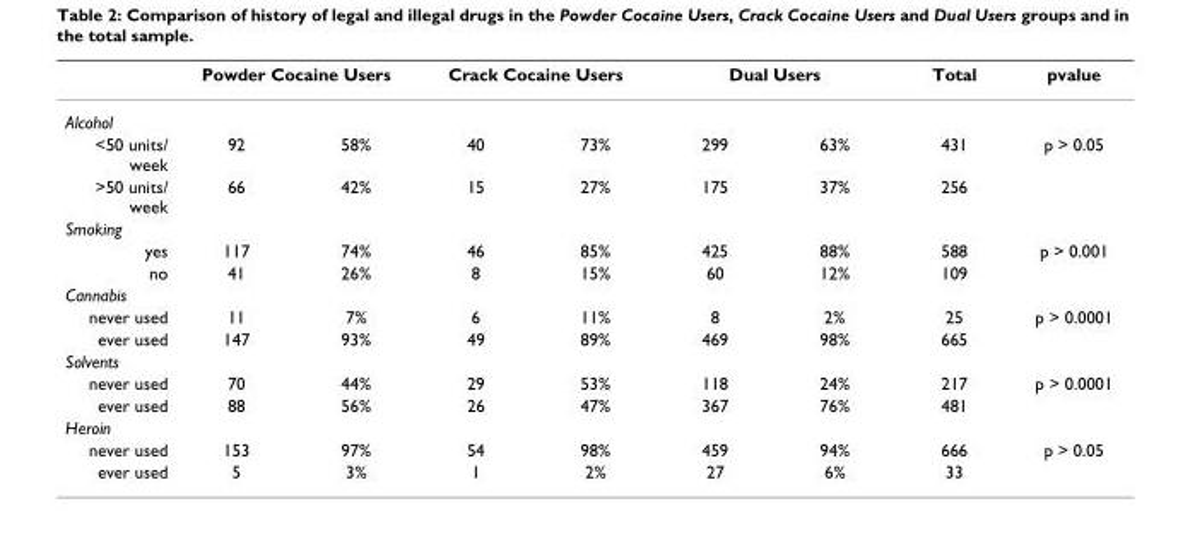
<table><thead><tr><td rowspan="2">Alcohol</td><td colspan="2">Powder Cocaine Users</td><td colspan="2">Crack Cocaine Users</td><td colspan="2">Dual Users</td><td rowspan="2">Total</td><td rowspan="2">pvalue</td></tr><tr><td></td><td></td><td></td><td></td><td></td><td></td></tr></thead><tbody><tr><td>&lt;50 units/ week</td><td>92</td><td>58%</td><td>40</td><td>73%</td><td>299</td><td>63%</td><td>431</td><td>p &gt; 0.05</td></tr><tr><td>&gt;50 units/ week</td><td>66</td><td>42%</td><td>15</td><td>27%</td><td>175</td><td>37%</td><td>256</td><td></td></tr><tr><td colspan="9">Smoking</td></tr><tr><td>yes</td><td>117</td><td>74%</td><td>46</td><td>85%</td><td>425</td><td>88%</td><td>588</td><td>p &gt; 0.001</td></tr><tr><td>no</td><td>41</td><td>26%</td><td>8</td><td>15%</td><td>60</td><td>12%</td><td>109</td><td></td></tr><tr><td colspan="9">Cannabis</td></tr><tr><td>never used</td><td>11</td><td>7%</td><td>6</td><td>11%</td><td>8</td><td>2%</td><td>25</td><td>p &gt; 0.0001</td></tr><tr><td>ever used</td><td>147</td><td>93%</td><td>49</td><td>89%</td><td>469</td><td>98%</td><td>665</td><td></td></tr><tr><td colspan="9">Solvents</td></tr><tr><td>never used</td><td>70</td><td>44%</td><td>29</td><td>53%</td><td>118</td><td>24%</td><td>217</td><td>p &gt; 0.0001</td></tr><tr><td>ever used</td><td>88</td><td>56%</td><td>26</td><td>47%</td><td>367</td><td>76%</td><td>481</td><td></td></tr><tr><td colspan="9">Heroin</td></tr><tr><td>never used</td><td>153</td><td>97%</td><td>54</td><td>98%</td><td>459</td><td>94%</td><td>666</td><td>p &gt; 0.05</td></tr><tr><td>ever used</td><td>5</td><td>3%</td><td>1</td><td>2%</td><td>27</td><td>6%</td><td>33</td><td></td></tr></tbody></table>